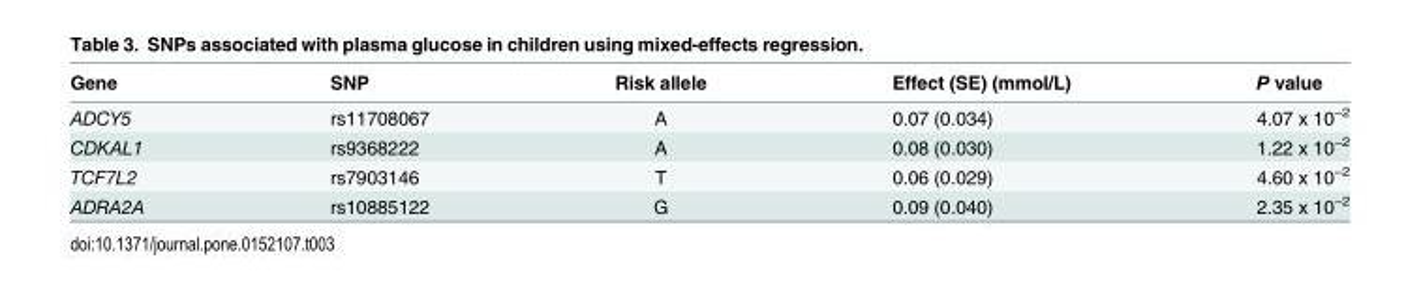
<table><thead><tr><td>Gene</td><td>SNP</td><td>Risk allele</td><td>Effect (SE) (mmol/L)</td><td>P value</td></tr></thead><tbody><tr><td>ADCY5</td><td>rs11708067</td><td>A</td><td>0.07 (0.034)</td><td>4.07 x 10<sup>−2</sup></td></tr><tr><td>CDKAL1</td><td>rs9368222</td><td>A</td><td>0.08 (0.030)</td><td>1.22 x 10<sup>−2</sup></td></tr><tr><td>TCF7L2</td><td>rs7903146</td><td>T</td><td>0.06 (0.029)</td><td>4.60 x 10<sup>−2</sup></td></tr><tr><td>ADRA2A</td><td>rs10885122</td><td>G</td><td>0.09 (0.040)</td><td>2.35 x 10<sup>−2</sup></td></tr></tbody></table>